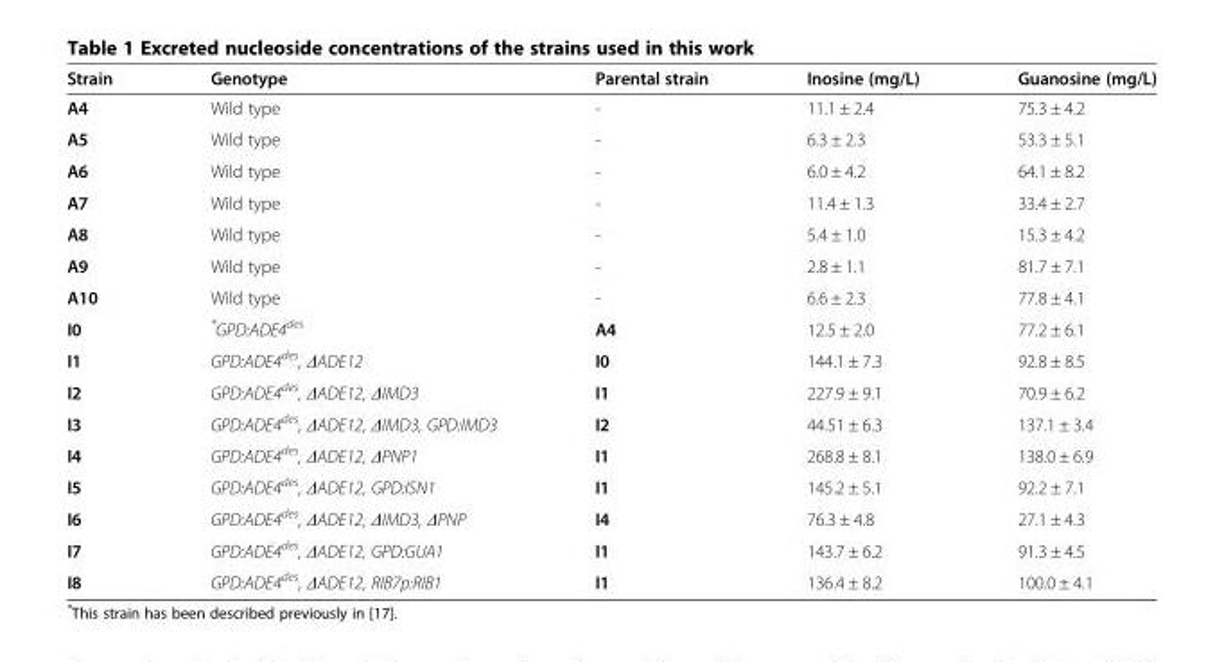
<table><thead><tr><td>Strain</td><td>Genotype</td><td>Parental strain</td><td>Inosine (mg/L)</td><td>Guanosine (mg/L)</td></tr></thead><tbody><tr><td>A4</td><td>Wild type</td><td>-</td><td>11.1 ± 2.4</td><td>75.3 ± 4.2</td></tr><tr><td>A5</td><td>Wild type</td><td>-</td><td>6.3 ± 2.3</td><td>53.3 ± 5.1</td></tr><tr><td>A6</td><td>Wild type</td><td>-</td><td>6.0 ± 4.2</td><td>64.1 ± 8.2</td></tr><tr><td>A7</td><td>Wild type</td><td>-</td><td>11.4 ± 1.3</td><td>33.4 ± 2.7</td></tr><tr><td>A8</td><td>Wild type</td><td>-</td><td>5.4 ± 1.0</td><td>15.3 ± 4.2</td></tr><tr><td>A9</td><td>Wild type</td><td>-</td><td>2.8 ± 1.1</td><td>81.7 ± 7.1</td></tr><tr><td>A10</td><td>Wild type</td><td>-</td><td>6.6 ± 2.3</td><td>77.8 ± 4.1</td></tr><tr><td>I0</td><td>*GPD:ADE4<sup>des</sup></td><td>A4</td><td>12.5 ± 2.0</td><td>77.2 ± 6.1</td></tr><tr><td>I1</td><td>GPD:ADE4<sup>des</sup>, ΔADE12</td><td>I0</td><td>144.1 ± 7.3</td><td>92.8 ± 8.5</td></tr><tr><td>I2</td><td>GPD:ADE4<sup>des</sup>, ΔADE12, ΔIMD3</td><td>I1</td><td>227.9 ± 9.1</td><td>70.9 ± 6.2</td></tr><tr><td>I3</td><td>GPD:ADE4<sup>des</sup>, ΔADE12, ΔIMD3, GPD:IMD3</td><td>I2</td><td>44.51 ± 6.3</td><td>137.1 ± 3.4</td></tr><tr><td>I4</td><td>GPD:ADE4<sup>des</sup>, ΔADE12, ΔPNP1</td><td>I1</td><td>268.8 ± 8.1</td><td>138.0 ± 6.9</td></tr><tr><td>I5</td><td>GPD:ADE4<sup>des</sup>, ΔADE12, GPD:ISN1</td><td>I1</td><td>145.2 ± 5.1</td><td>92.2 ± 7.1</td></tr><tr><td>I6</td><td>GPD:ADE4<sup>des</sup>, ΔADE12, ΔIMD3, ΔPNP</td><td>I4</td><td>76.3 ± 4.8</td><td>27.1 ± 4.3</td></tr><tr><td>I7</td><td>GPD:ADE4<sup>des</sup>, ΔADE12, GPD:GUA1</td><td>I1</td><td>143.7 ± 6.2</td><td>91.3 ± 4.5</td></tr><tr><td>I8</td><td>GPD:ADE4<sup>des</sup>, ΔADE12, RIB7p:RIB1</td><td>I1</td><td>136.4 ± 8.2</td><td>100.0 ± 4.1</td></tr></tbody></table>